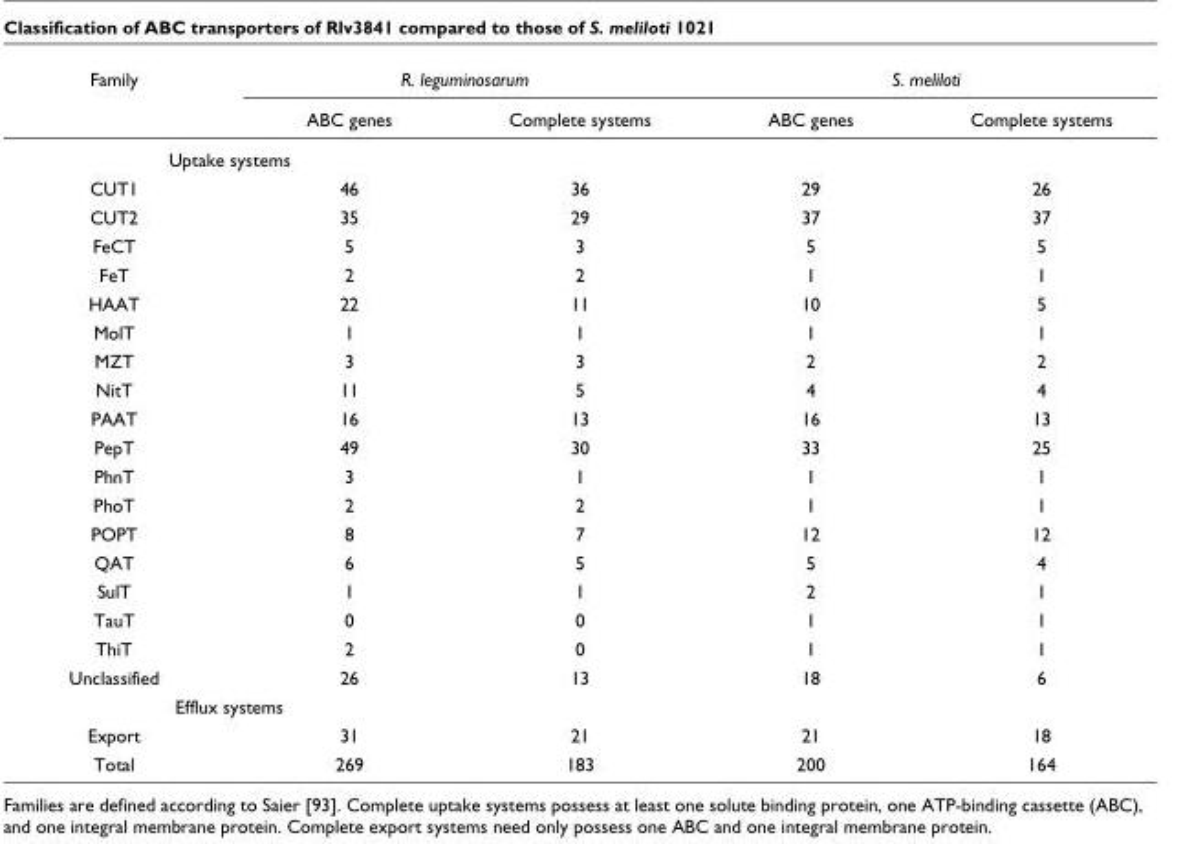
<table><thead><tr><td rowspan="2">Family</td><td colspan="2">R. leguminosarum</td><td colspan="2">S. meliloti</td></tr><tr><td>ABC genes</td><td>Complete systems</td><td>ABC genes</td><td>Complete systems</td></tr></thead><tbody><tr><td colspan="5">Uptake systems</td></tr><tr><td>CUT1</td><td>46</td><td>36</td><td>29</td><td>26</td></tr><tr><td>CUT2</td><td>35</td><td>29</td><td>37</td><td>37</td></tr><tr><td>FeCT</td><td>5</td><td>3</td><td>5</td><td>5</td></tr><tr><td>FeT</td><td>2</td><td>2</td><td>1</td><td>1</td></tr><tr><td>HAAT</td><td>22</td><td>11</td><td>10</td><td>5</td></tr><tr><td>MolT</td><td>1</td><td>1</td><td>1</td><td>1</td></tr><tr><td>MZT</td><td>3</td><td>3</td><td>2</td><td>2</td></tr><tr><td>NitT</td><td>11</td><td>5</td><td>4</td><td>4</td></tr><tr><td>PAAT</td><td>16</td><td>13</td><td>16</td><td>13</td></tr><tr><td>PepT</td><td>49</td><td>30</td><td>33</td><td>25</td></tr><tr><td>PhnT</td><td>3</td><td>1</td><td>1</td><td>1</td></tr><tr><td>PhoT</td><td>2</td><td>2</td><td>1</td><td>1</td></tr><tr><td>POPT</td><td>8</td><td>7</td><td>12</td><td>12</td></tr><tr><td>QAT</td><td>6</td><td>5</td><td>5</td><td>4</td></tr><tr><td>SulT</td><td>1</td><td>1</td><td>2</td><td>1</td></tr><tr><td>TauT</td><td>0</td><td>0</td><td>1</td><td>1</td></tr><tr><td>ThiT</td><td>2</td><td>0</td><td>1</td><td>1</td></tr><tr><td>Unclassified</td><td>26</td><td>13</td><td>18</td><td>6</td></tr><tr><td colspan="5">Efflux systems</td></tr><tr><td>Export</td><td>31</td><td>21</td><td>21</td><td>18</td></tr><tr><td>Total</td><td>269</td><td>183</td><td>200</td><td>164</td></tr></tbody></table>